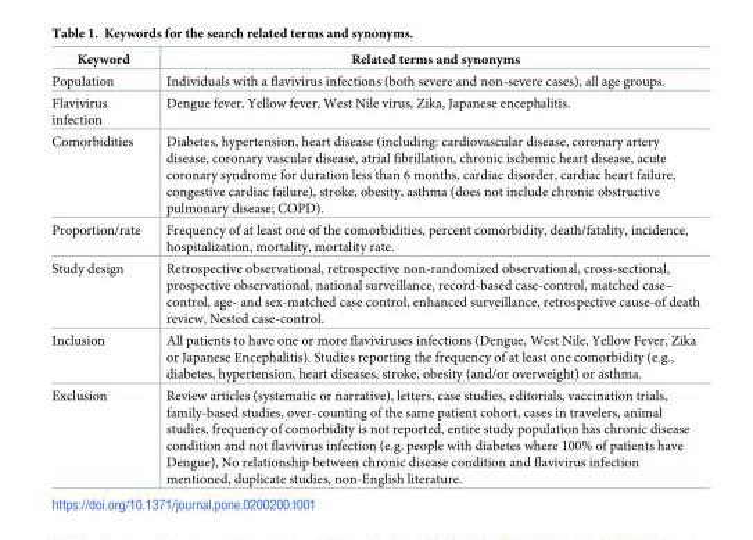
<table><thead><tr><td>Keyword</td><td>Related terms and synonyms</td></tr></thead><tbody><tr><td>Population</td><td>Individuals with a flavivirus infections (both severe and non-severe cases), all age groups.</td></tr><tr><td>Flavivirus infection</td><td>Dengue fever, Yellow fever, West Nile virus, Zika, Japanese encephalitis.</td></tr><tr><td>Comorbidities</td><td>Diabetes, hypertension, heart disease (including: cardiovascular disease, coronary artery disease, coronary vascular disease, atrial fibrillation, chronic ischemic heart disease, acute coronary syndrome for duration less than 6 months, cardiac disorder, cardiac heart failure, congestive cardiac failure), stroke, obesity, asthma (does not include chronic obstructive pulmonary disease; COPD).</td></tr><tr><td>Proportion/rate</td><td>Frequency of at least one of the comorbidities, percent comorbidity, death/fatality, incidence, hospitalization, mortality, mortality rate.</td></tr><tr><td>Study design</td><td>Retrospective observational, retrospective non-randomized observational, cross-sectional, prospective observational, national surveillance, record-based case-control, matched case– control, age- and sex-matched case control, enhanced surveillance, retrospective cause-of death review, Nested case-control.</td></tr><tr><td>Inclusion</td><td>All patients to have one or more flaviviruses infections (Dengue, West Nile, Yellow Fever, Zika or Japanese Encephalitis). Studies reporting the frequency of at least one comorbidity (e.g., diabetes, hypertension, heart diseases, stroke, obesity (and/or overweight) or asthma.</td></tr><tr><td>Exclusion</td><td>Review articles (systematic or narrative), letters, case studies, editorials, vaccination trials, family-based studies, over-counting of the same patient cohort, cases in travelers, animal studies, frequency of comorbidity is not reported, entire study population has chronic disease condition and not flavivirus infection (e.g. people with diabetes where 100% of patients have Dengue), No relationship between chronic disease condition and flavivirus infection mentioned, duplicate studies, non-English literature.</td></tr></tbody></table>